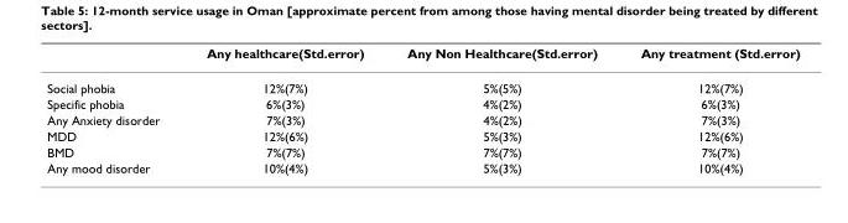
<table><thead><tr><td></td><td>Any healthcare(Std.error)</td><td>Any Non Healthcare(Std.error)</td><td>Any treatment (Std.error)</td></tr></thead><tbody><tr><td>Social phobia</td><td>12%(7%)</td><td>5%(5%)</td><td>12%(7%)</td></tr><tr><td>Specific phobia</td><td>6%(3%)</td><td>4%(2%)</td><td>6%(3%)</td></tr><tr><td>Any Anxiety disorder</td><td>7%(3%)</td><td>4%(2%)</td><td>7%(3%)</td></tr><tr><td>MDD</td><td>12%(6%)</td><td>5%(3%)</td><td>12%(6%)</td></tr><tr><td>BMD</td><td>7%(7%)</td><td>7%(7%)</td><td>7%(7%)</td></tr><tr><td>Any mood disorder</td><td>10%(4%)</td><td>5%(3%)</td><td>10%(4%)</td></tr></tbody></table>